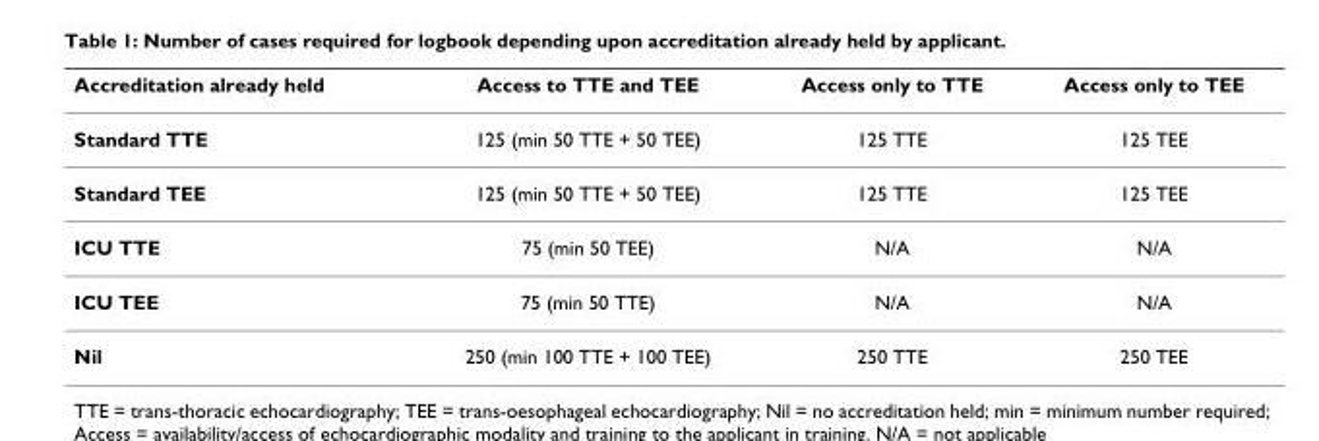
<table><thead><tr><td>Accreditation already held</td><td>Access to TTE and TEE</td><td>Access only to TTE</td><td>Access only to TEE</td></tr></thead><tbody><tr><td>Standard TTE</td><td>125 (min 50 TTE + 50 TEE)</td><td>125 TTE</td><td>125 TEE</td></tr><tr><td>Standard TEE</td><td>125 (min 50 TTE + 50 TEE)</td><td>125 TTE</td><td>125 TEE</td></tr><tr><td>ICU TTE</td><td>75 (min 50 TEE)</td><td>N/A</td><td>N/A</td></tr><tr><td>ICU TEE</td><td>75 (min 50 TTE)</td><td>N/A</td><td>N/A</td></tr><tr><td>Nil</td><td>250 (min 100 TTE + 100 TEE)</td><td>250 TTE</td><td>250 TEE</td></tr></tbody></table>